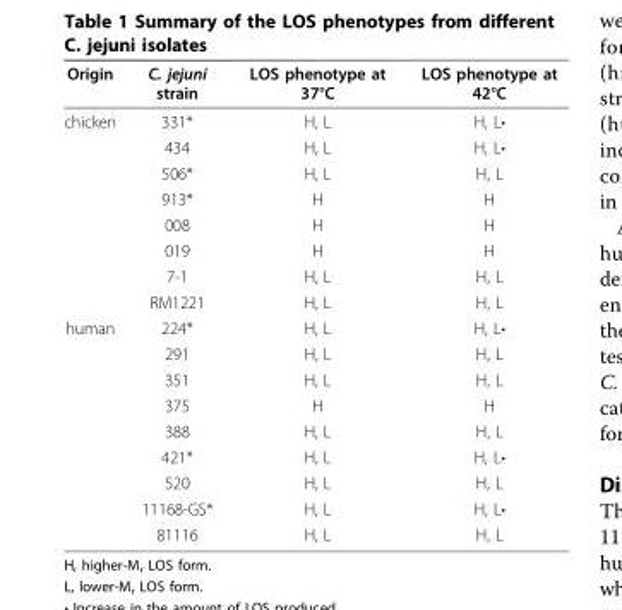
<table><thead><tr><td>Origin</td><td>C. jejuni strain</td><td>LOS phenotype at 37°C</td><td>LOS phenotype at 42°C</td></tr></thead><tbody><tr><td rowspan="8">chicken</td><td>331*</td><td>H, L</td><td>H, L•</td></tr><tr><td>434</td><td>H, L</td><td>H, L•</td></tr><tr><td>506*</td><td>H, L</td><td>H, L</td></tr><tr><td>913*</td><td>H</td><td>H</td></tr><tr><td>008</td><td>H</td><td>H</td></tr><tr><td>019</td><td>H</td><td>H</td></tr><tr><td>7-1</td><td>H, L</td><td>H, L</td></tr><tr><td>RM1221</td><td>H, L</td><td>H, L</td></tr><tr><td rowspan="9">human</td><td>224*</td><td>H, L</td><td>H, L•</td></tr><tr><td>291</td><td>H, L</td><td>H, L</td></tr><tr><td>351</td><td>H, L</td><td>H, L</td></tr><tr><td>375</td><td>H</td><td>H</td></tr><tr><td>388</td><td>H, L</td><td>H, L</td></tr><tr><td>421*</td><td>H, L</td><td>H, L•</td></tr><tr><td>520</td><td>H, L</td><td>H, L</td></tr><tr><td>11168-GS*</td><td>H, L</td><td>H, L•</td></tr><tr><td>81116</td><td>H, L</td><td>H, L</td></tr></tbody></table>